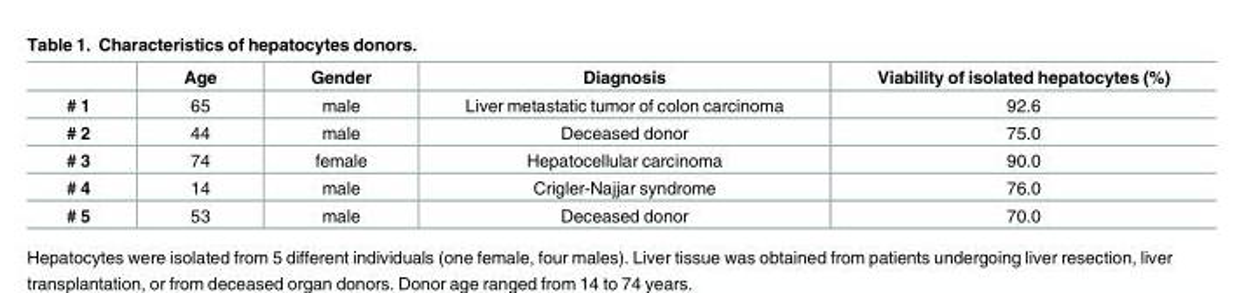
<table><thead><tr><td></td><td>Age</td><td>Gender</td><td>Diagnosis</td><td>Viability of isolated hepatocytes (%)</td></tr></thead><tbody><tr><td># 1</td><td>65</td><td>male</td><td>Liver metastatic tumor of colon carcinoma</td><td>92.6</td></tr><tr><td># 2</td><td>44</td><td>male</td><td>Deceased donor</td><td>75.0</td></tr><tr><td># 3</td><td>74</td><td>female</td><td>Hepatocellular carcinoma</td><td>90.0</td></tr><tr><td># 4</td><td>14</td><td>male</td><td>Crigler-Najjar syndrome</td><td>76.0</td></tr><tr><td># 5</td><td>53</td><td>male</td><td>Deceased donor</td><td>70.0</td></tr></tbody></table>